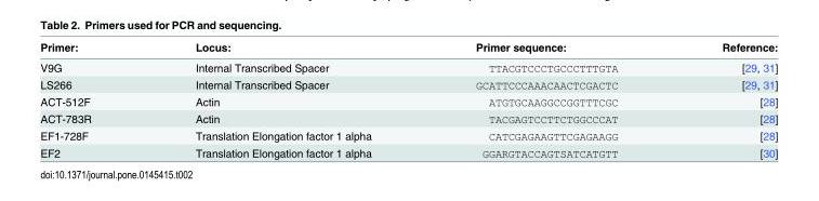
<table><thead><tr><td>Primer:</td><td>Locus:</td><td>Primer sequence:</td><td>Reference:</td></tr></thead><tbody><tr><td>V9G</td><td>Internal Transcribed Spacer</td><td>TTACGTCCCTGCCCTTTGTA</td><td>[29, 31]</td></tr><tr><td>LS266</td><td>Internal Transcribed Spacer</td><td>GCATTCCCAAACAACTCGACTC</td><td>[29, 31]</td></tr><tr><td>ACT-512F</td><td>Actin</td><td>ATGTGCAAGGCCGGTTTCGC</td><td>[28]</td></tr><tr><td>ACT-783R</td><td>Actin</td><td>TACGAGTCCTTCTGGCCCAT</td><td>[28]</td></tr><tr><td>EF1-728F</td><td>Translation Elongation factor 1 alpha</td><td>CATCGAGAAGTTCGAGAAGG</td><td>[28]</td></tr><tr><td>EF2</td><td>Translation Elongation factor 1 alpha</td><td>GGARGTACCAGTSATCATGTT</td><td>[30]</td></tr></tbody></table>